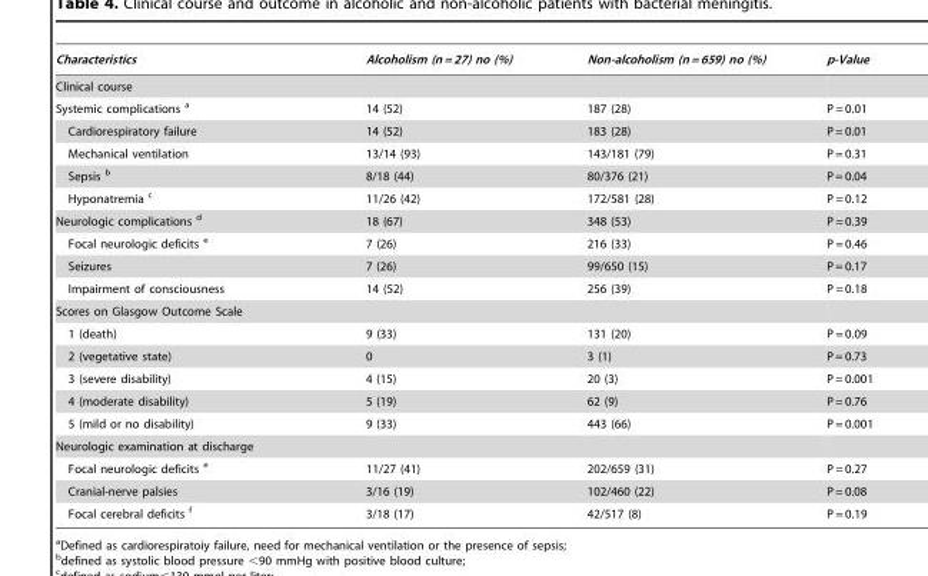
<table><thead><tr><td>Characteristics</td><td>Alcoholism (n = 27) no (%)</td><td>Non-alcoholism (n = 659) no (%)</td><td>p-Value</td></tr></thead><tbody><tr><td colspan="4">Clinical course</td></tr><tr><td>Systemic complications a</td><td>14 (52)</td><td>187 (28)</td><td>P = 0.01</td></tr><tr><td>Cardiorespiratory failure</td><td>14 (52)</td><td>183 (28)</td><td>P = 0.01</td></tr><tr><td>Mechanical ventilation</td><td>13/14 (93)</td><td>143/181 (79)</td><td>P = 0.31</td></tr><tr><td>Sepsis b</td><td>8/18 (44)</td><td>80/376 (21)</td><td>P = 0.04</td></tr><tr><td>Hyponatremia c</td><td>11/26 (42)</td><td>172/581 (28)</td><td>P = 0.12</td></tr><tr><td>Neurologic complications d</td><td>18 (67)</td><td>348 (53)</td><td>P = 0.39</td></tr><tr><td>Focal neurologic deficits e</td><td>7 (26)</td><td>216 (33)</td><td>P = 0.46</td></tr><tr><td>Seizures</td><td>7 (26)</td><td>99/650 (15)</td><td>P = 0.17</td></tr><tr><td>Impairment of consciousness</td><td>14 (52)</td><td>256 (39)</td><td>P = 0.18</td></tr><tr><td colspan="4">Scores on Glasgow Outcome Scale</td></tr><tr><td>1 (death)</td><td>9 (33)</td><td>131 (20)</td><td>P = 0.09</td></tr><tr><td>2 (vegetative state)</td><td>0</td><td>3 (1)</td><td>P = 0.73</td></tr><tr><td>3 (severe disability)</td><td>4 (15)</td><td>20 (3)</td><td>P = 0.001</td></tr><tr><td>4 (moderate disability)</td><td>5 (19)</td><td>62 (9)</td><td>P = 0.76</td></tr><tr><td>5 (mild or no disability)</td><td>9 (33)</td><td>443 (66)</td><td>P = 0.001</td></tr><tr><td colspan="4">Neurologic examination at discharge</td></tr><tr><td>Focal neurologic deficits e</td><td>11/27 (41)</td><td>202/659 (31)</td><td>P = 0.27</td></tr><tr><td>Cranial-nerve palsies</td><td>3/16 (19)</td><td>102/460 (22)</td><td>P = 0.08</td></tr><tr><td>Focal cerebral deficits f</td><td>3/18 (17)</td><td>42/517 (8)</td><td>P = 0.19</td></tr></tbody></table>